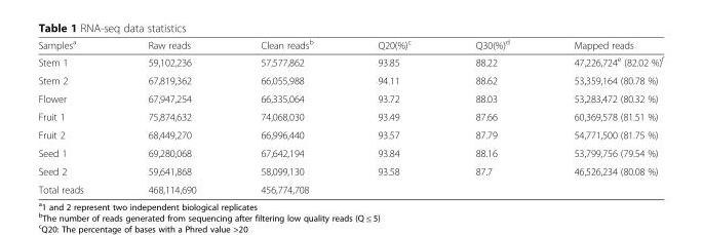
<table><thead><tr><td>Samples<sup>a</sup></td><td>Raw reads</td><td>Clean reads<sup>b</sup></td><td>Q20(%)<sup>c</sup></td><td>Q30(%)<sup>d</sup></td><td>Mapped reads</td></tr></thead><tbody><tr><td>Stem 1</td><td>59,102,236</td><td>57,577,862</td><td>93.85</td><td>88.22</td><td>47,226,724<sup>e</sup> (82.02 %)<sup>f</sup></td></tr><tr><td>Stem 2</td><td>67,819,362</td><td>66,055,988</td><td>94.11</td><td>88.62</td><td>53,359,164 (80.78 %)</td></tr><tr><td>Flower</td><td>67,947,254</td><td>66,335,064</td><td>93.72</td><td>88.03</td><td>53,283,472 (80.32 %)</td></tr><tr><td>Fruit 1</td><td>75,874,632</td><td>74,068,030</td><td>93.49</td><td>87.66</td><td>60,369,578 (81.51 %)</td></tr><tr><td>Fruit 2</td><td>68,449,270</td><td>66,996,440</td><td>93.57</td><td>87.79</td><td>54,771,500 (81.75 %)</td></tr><tr><td>Seed 1</td><td>69,280,068</td><td>67,642,194</td><td>93.84</td><td>88.16</td><td>53,799,756 (79.54 %)</td></tr><tr><td>Seed 2</td><td>59,641,868</td><td>58,099,130</td><td>93.58</td><td>87.7</td><td>46,526,234 (80.08 %)</td></tr><tr><td>Total reads</td><td>468,114,690</td><td>456,774,708</td><td></td><td></td><td></td></tr></tbody></table>